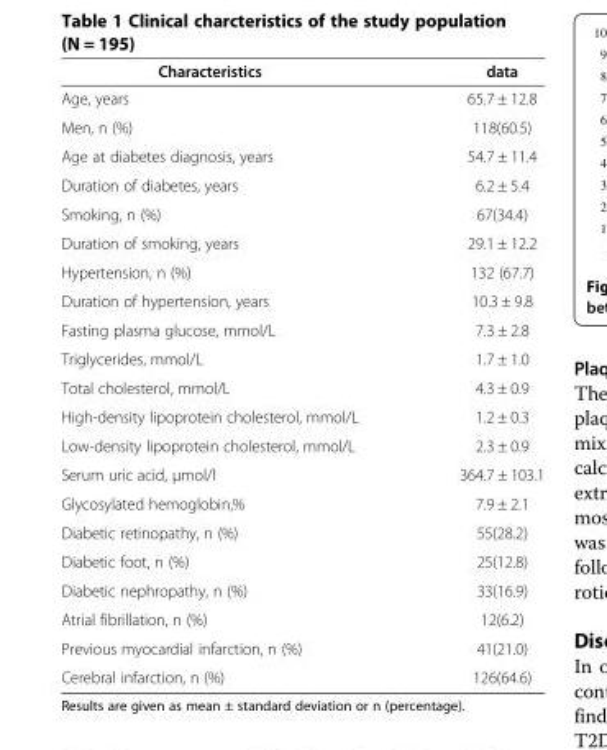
<table><thead><tr><td>Characteristics</td><td>data</td></tr></thead><tbody><tr><td>Age, years</td><td>65.7 ± 12.8</td></tr><tr><td>Men, n (%)</td><td>118(60.5)</td></tr><tr><td>Age at diabetes diagnosis, years</td><td>54.7 ± 11.4</td></tr><tr><td>Duration of diabetes, years</td><td>6.2 ± 5.4</td></tr><tr><td>Smoking, n (%)</td><td>67(34.4)</td></tr><tr><td>Duration of smoking, years</td><td>29.1 ± 12.2</td></tr><tr><td>Hypertension, n (%)</td><td>132 (67.7)</td></tr><tr><td>Duration of hypertension, years</td><td>10.3 ± 9.8</td></tr><tr><td>Fasting plasma glucose, mmol/L</td><td>7.3 ± 2.8</td></tr><tr><td>Triglycerides, mmol/L</td><td>1.7 ± 1.0</td></tr><tr><td>Total cholesterol, mmol/L</td><td>4.3 ± 0.9</td></tr><tr><td>High-density lipoprotein cholesterol, mmol/L</td><td>1.2 ± 0.3</td></tr><tr><td>Low-density lipoprotein cholesterol, mmol/L</td><td>2.3 ± 0.9</td></tr><tr><td>Serum uric acid, μmol/l</td><td>364.7 ± 103.1</td></tr><tr><td>Glycosylated hemoglobin,%</td><td>7.9 ± 2.1</td></tr><tr><td>Diabetic retinopathy, n (%)</td><td>55(28.2)</td></tr><tr><td>Diabetic foot, n (%)</td><td>25(12.8)</td></tr><tr><td>Diabetic nephropathy, n (%)</td><td>33(16.9)</td></tr><tr><td>Atrial fibrillation, n (%)</td><td>12(6.2)</td></tr><tr><td>Previous myocardial infarction, n (%)</td><td>41(21.0)</td></tr><tr><td>Cerebral infarction, n (%)</td><td>126(64.6)</td></tr></tbody></table>